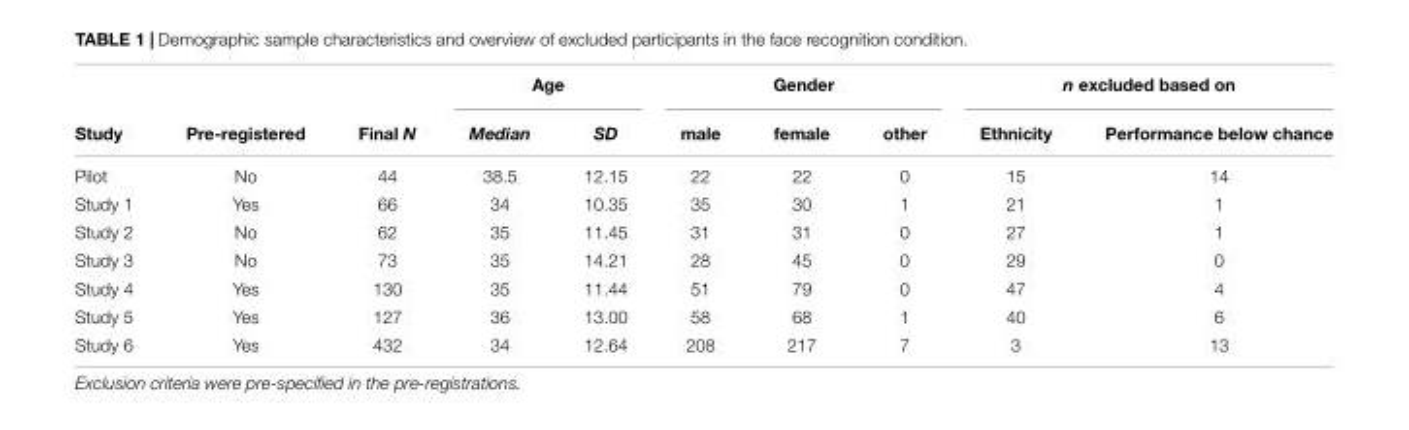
<table><thead><tr><td rowspan="2">Study</td><td rowspan="2">Pre-registered</td><td rowspan="2">Final N</td><td colspan="2">Age</td><td colspan="3">Gender</td><td colspan="2">n excluded based on</td></tr><tr><td>Median</td><td>SD</td><td>male</td><td>female</td><td>other</td><td>Ethnicity</td><td>Performance below chance</td></tr></thead><tbody><tr><td>Pilot</td><td>No</td><td>44</td><td>38.5</td><td>12.15</td><td>22</td><td>22</td><td>0</td><td>15</td><td>14</td></tr><tr><td>Study 1</td><td>Yes</td><td>66</td><td>34</td><td>10.35</td><td>35</td><td>30</td><td>1</td><td>21</td><td>1</td></tr><tr><td>Study 2</td><td>No</td><td>62</td><td>35</td><td>11.45</td><td>31</td><td>31</td><td>0</td><td>27</td><td>1</td></tr><tr><td>Study 3</td><td>No</td><td>73</td><td>35</td><td>14.21</td><td>28</td><td>45</td><td>0</td><td>29</td><td>0</td></tr><tr><td>Study 4</td><td>Yes</td><td>130</td><td>35</td><td>11.44</td><td>51</td><td>79</td><td>0</td><td>47</td><td>4</td></tr><tr><td>Study 5</td><td>Yes</td><td>127</td><td>36</td><td>13.00</td><td>58</td><td>68</td><td>1</td><td>40</td><td>6</td></tr><tr><td>Study 6</td><td>Yes</td><td>432</td><td>34</td><td>12.64</td><td>208</td><td>217</td><td>7</td><td>3</td><td>13</td></tr></tbody></table>